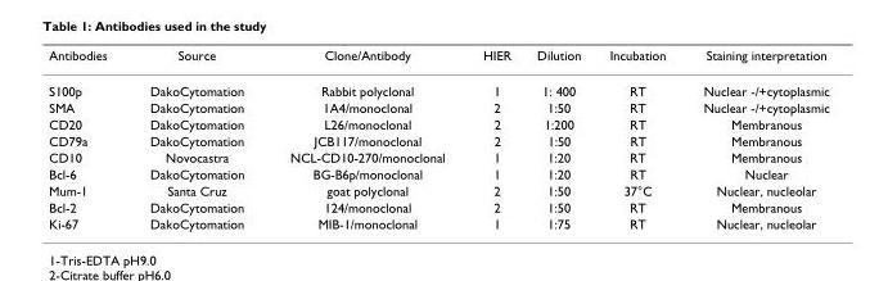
<table><thead><tr><td>Antibodies</td><td>Source</td><td>Clone/Antibody</td><td>HIER</td><td>Dilution</td><td>Incubation</td><td>Staining interpretation</td></tr></thead><tbody><tr><td>S100p</td><td>DakoCytomation</td><td>Rabbit polyclonal</td><td>1</td><td>1: 400</td><td>RT</td><td>Nuclear -/+cytoplasmic</td></tr><tr><td>SMA</td><td>DakoCytomation</td><td>1A4/monoclonal</td><td>2</td><td>1:50</td><td>RT</td><td>Nuclear -/+cytoplasmic</td></tr><tr><td>CD20</td><td>DakoCytomation</td><td>L26/monoclonal</td><td>2</td><td>1:200</td><td>RT</td><td>Membranous</td></tr><tr><td>CD79a</td><td>DakoCytomation</td><td>JCB117/monoclonal</td><td>2</td><td>1:50</td><td>RT</td><td>Membranous</td></tr><tr><td>CD10</td><td>Novocastra</td><td>NCL-CD10-270/monoclonal</td><td>1</td><td>1:20</td><td>RT</td><td>Membranous</td></tr><tr><td>Bcl-6</td><td>DakoCytomation</td><td>BG-B6p/monoclonal</td><td>1</td><td>1:20</td><td>RT</td><td>Nuclear</td></tr><tr><td>Mum-1</td><td>Santa Cruz</td><td>goat polyclonal</td><td>2</td><td>1:50</td><td>37°C</td><td>Nuclear, nucleolar</td></tr><tr><td>Bcl-2</td><td>DakoCytomation</td><td>124/monoclonal</td><td>2</td><td>1:50</td><td>RT</td><td>Membranous</td></tr><tr><td>Ki-67</td><td>DakoCytomation</td><td>MIB-1/monoclonal</td><td>1</td><td>1:75</td><td>RT</td><td>Nuclear, nucleolar</td></tr></tbody></table>